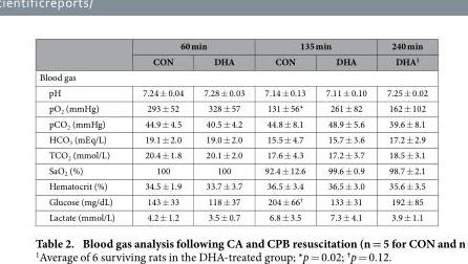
<table><thead><tr><td rowspan="2"></td><td colspan="2">60 min</td><td colspan="2">135 min</td><td rowspan="2">240 min DHA<sup>1</sup></td></tr><tr><td>CON</td><td>DHA</td><td>CON</td><td>DHA</td></tr></thead><tbody><tr><td colspan="6">Blood gas</td></tr><tr><td>pH</td><td>7.24 ± 0.04</td><td>7.28 ± 0.03</td><td>7.14 ± 0.13</td><td>7.11 ± 0.10</td><td>7.25 ± 0.02</td></tr><tr><td>pO<sub>2</sub> (mmHg)</td><td>293 ± 52</td><td>328 ± 57</td><td>131 ± 56*</td><td>261 ± 82</td><td>162 ± 102</td></tr><tr><td>pCO<sub>2</sub> (mmHg)</td><td>44.9 ± 4.5</td><td>40.5 ± 4.2</td><td>44.8 ± 8.1</td><td>48.9 ± 5.6</td><td>39.6 ± 8.1</td></tr><tr><td>HCO<sub>3</sub> (mEq/L)</td><td>19.1 ± 2.0</td><td>19.0 ± 2.0</td><td>15.5 ± 4.7</td><td>15.7 ± 3.6</td><td>17.2 ± 2.9</td></tr><tr><td>TCO<sub>2</sub> (mmol/L)</td><td>20.4 ± 1.8</td><td>20.1 ± 2.0</td><td>17.6 ± 4.3</td><td>17.2 ± 3.7</td><td>18.5 ± 3.1</td></tr><tr><td>SaO<sub>2</sub> (%)</td><td>100</td><td>100</td><td>92.4 ± 12.6</td><td>99.6 ± 0.9</td><td>98.7 ± 2.1</td></tr><tr><td>Hematocrit (%)</td><td>34.5 ± 1.9</td><td>33.7 ± 3.7</td><td>36.5 ± 3.4</td><td>36.5 ± 3.0</td><td>35.6 ± 3.5</td></tr><tr><td>Glucose (mg/dL)</td><td>143 ± 33</td><td>118 ± 37</td><td>204 ± 66<sup>†</sup></td><td>133 ± 31</td><td>192 ± 85</td></tr><tr><td>Lactate (mmol/L)</td><td>4.2 ± 1.2</td><td>3.5 ± 0.7</td><td>6.8 ± 3.5</td><td>7.3 ± 4.1</td><td>3.9 ± 1.1</td></tr></tbody></table>